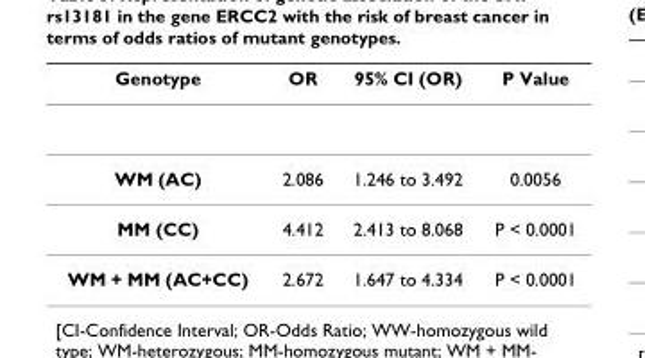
<table><thead><tr><td>Genotype</td><td>OR</td><td>95% CI (OR)</td><td>P Value</td></tr></thead><tbody><tr><td>WM (AC)</td><td>2.086</td><td>1.246 to 3.492</td><td>0.0056</td></tr><tr><td>MM (CC)</td><td>4.412</td><td>2.413 to 8.068</td><td>P &lt; 0.0001</td></tr><tr><td>WM + MM (AC+CC)</td><td>2.672</td><td>1.647 to 4.334</td><td>P &lt; 0.0001</td></tr></tbody></table>